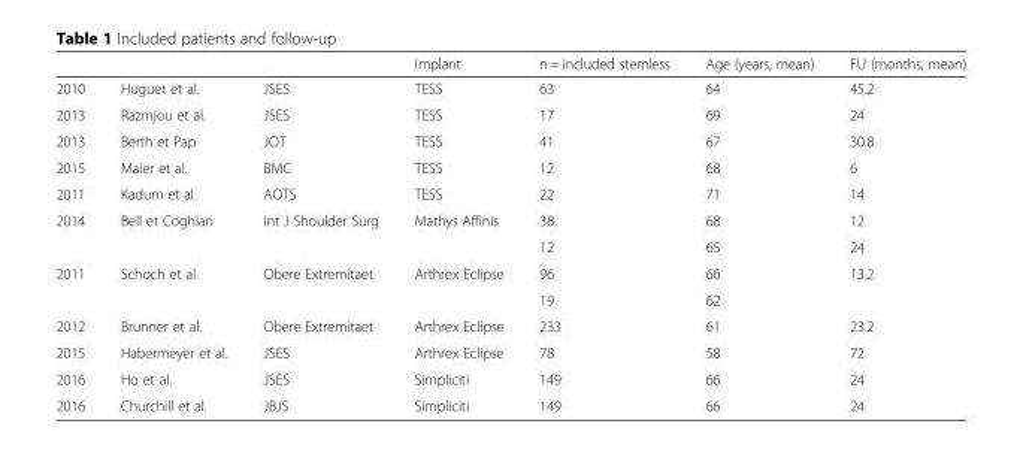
<table><thead><tr><td></td><td></td><td></td><td>Implant</td><td>n = included stemless</td><td>Age (years, mean)</td><td>FU (months, mean)</td></tr></thead><tbody><tr><td>2010</td><td>Huguet et al.</td><td>JSES</td><td>TESS</td><td>63</td><td>64</td><td>45.2</td></tr><tr><td>2013</td><td>Razmjou et al.</td><td>JSES</td><td>TESS</td><td>17</td><td>69</td><td>24</td></tr><tr><td>2013</td><td>Berth et Pap</td><td>JOT</td><td>TESS</td><td>41</td><td>67</td><td>30.8</td></tr><tr><td>2015</td><td>Maier et al.</td><td>BMC</td><td>TESS</td><td>12</td><td>68</td><td>6</td></tr><tr><td>2011</td><td>Kadum et al.</td><td>AOTS</td><td>TESS</td><td>22</td><td>71</td><td>14</td></tr><tr><td rowspan="2">2014</td><td rowspan="2">Bell et Coghlan</td><td rowspan="2">Int J Shoulder Surg</td><td rowspan="2">Mathys Affinis</td><td>38</td><td>68</td><td>12</td></tr><tr><td>12</td><td>65</td><td>24</td></tr><tr><td rowspan="2">2011</td><td rowspan="2">Schoch et al.</td><td rowspan="2">Obere Extremitaet</td><td rowspan="2">Arthrex Eclipse</td><td>96</td><td>66</td><td rowspan="2">13.2</td></tr><tr><td>19</td><td>62</td></tr><tr><td>2012</td><td>Brunner et al.</td><td>Obere Extremitaet</td><td>Arthrex Eclipse</td><td>233</td><td>61</td><td>23.2</td></tr><tr><td>2015</td><td>Habermeyer et al.</td><td>JSES</td><td>Arthrex Eclipse</td><td>78</td><td>58</td><td>72</td></tr><tr><td>2016</td><td>Ho et al.</td><td>JSES</td><td>Simpliciti</td><td>149</td><td>66</td><td>24</td></tr><tr><td>2016</td><td>Churchill et al.</td><td>JBJS</td><td>Simpliciti</td><td>149</td><td>66</td><td>24</td></tr></tbody></table>